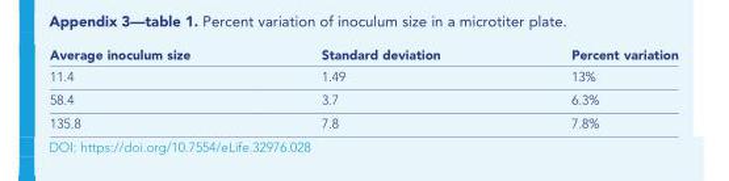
<table><tbody><tr><td>Average inoculum size</td><td>Standard deviation</td><td>Percent variation</td></tr><tr><td>11.4</td><td>1.49</td><td>13%</td></tr><tr><td>58.4</td><td>3.7</td><td>6.3%</td></tr><tr><td>135.8</td><td>7.8</td><td>7.8%</td></tr></tbody></table>